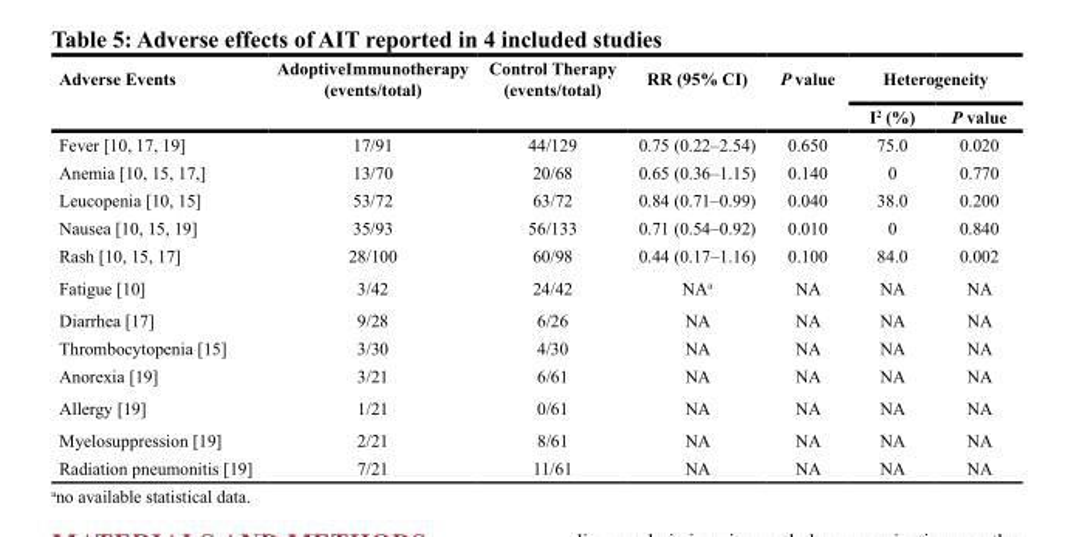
<table><thead><tr><td rowspan="2">Adverse Events</td><td rowspan="2">AdoptiveImmunotherapy (events/total)</td><td rowspan="2">Control Therapy (events/total)</td><td rowspan="2">RR (95% CI)</td><td rowspan="2">P value</td><td colspan="2">Heterogeneity</td></tr><tr><td>I<sup>2</sup> (%)</td><td>P value</td></tr></thead><tbody><tr><td>Fever [10, 17, 19]</td><td>17/91</td><td>44/129</td><td>0.75 (0.22–2.54)</td><td>0.650</td><td>75.0</td><td>0.020</td></tr><tr><td>Anemia [10, 15, 17,]</td><td>13/70</td><td>20/68</td><td>0.65 (0.36–1.15)</td><td>0.140</td><td>0</td><td>0.770</td></tr><tr><td>Leucopenia [10, 15]</td><td>53/72</td><td>63/72</td><td>0.84 (0.71–0.99)</td><td>0.040</td><td>38.0</td><td>0.200</td></tr><tr><td>Nausea [10, 15, 19]</td><td>35/93</td><td>56/133</td><td>0.71 (0.54–0.92)</td><td>0.010</td><td>0</td><td>0.840</td></tr><tr><td>Rash [10, 15, 17]</td><td>28/100</td><td>60/98</td><td>0.44 (0.17–1.16)</td><td>0.100</td><td>84.0</td><td>0.002</td></tr><tr><td>Fatigue [10]</td><td>3/42</td><td>24/42</td><td>NA<sup>a</sup></td><td>NA</td><td>NA</td><td>NA</td></tr><tr><td>Diarrhea [17]</td><td>9/28</td><td>6/26</td><td>NA</td><td>NA</td><td>NA</td><td>NA</td></tr><tr><td>Thrombocytopenia [15]</td><td>3/30</td><td>4/30</td><td>NA</td><td>NA</td><td>NA</td><td>NA</td></tr><tr><td>Anorexia [19]</td><td>3/21</td><td>6/61</td><td>NA</td><td>NA</td><td>NA</td><td>NA</td></tr><tr><td>Allergy [19]</td><td>1/21</td><td>0/61</td><td>NA</td><td>NA</td><td>NA</td><td>NA</td></tr><tr><td>Myelosuppression [19]</td><td>2/21</td><td>8/61</td><td>NA</td><td>NA</td><td>NA</td><td>NA</td></tr><tr><td>Radiation pneumonitis [19]</td><td>7/21</td><td>11/61</td><td>NA</td><td>NA</td><td>NA</td><td>NA</td></tr></tbody></table>